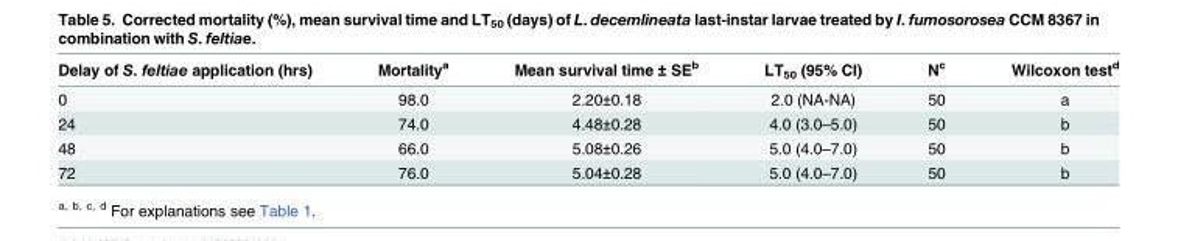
<table><thead><tr><td>Delay of S. feltiae application (hrs)</td><td>Mortality<sup>a</sup></td><td>Mean survival time ± SE<sup>b</sup></td><td>LT<sub>50</sub> (95% CI)</td><td>N<sup>c</sup></td><td>Wilcoxon test<sup>d</sup></td></tr></thead><tbody><tr><td>0</td><td>98.0</td><td>2.20±0.18</td><td>2.0 (NA-NA)</td><td>50</td><td>a</td></tr><tr><td>24</td><td>74.0</td><td>4.48±0.28</td><td>4.0 (3.0–5.0)</td><td>50</td><td>b</td></tr><tr><td>48</td><td>66.0</td><td>5.08±0.26</td><td>5.0 (4.0–7.0)</td><td>50</td><td>b</td></tr><tr><td>72</td><td>76.0</td><td>5.04±0.28</td><td>5.0 (4.0–7.0)</td><td>50</td><td>b</td></tr></tbody></table>